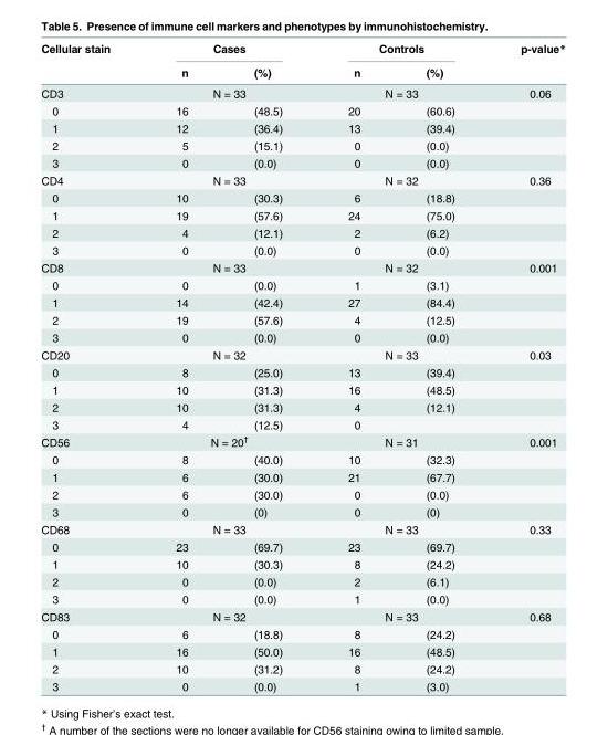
<table><thead><tr><td rowspan="2">Cellular stain</td><td colspan="2">Cases</td><td colspan="2">Controls</td><td rowspan="2">p-value*</td></tr><tr><td>n</td><td>(%)</td><td>n</td><td>(%)</td></tr></thead><tbody><tr><td>CD3</td><td colspan="2">N = 33</td><td colspan="2">N = 33</td><td>0.06</td></tr><tr><td>0</td><td>16</td><td>(48.5)</td><td>20</td><td>(60.6)</td><td></td></tr><tr><td>1</td><td>12</td><td>(36.4)</td><td>13</td><td>(39.4)</td><td></td></tr><tr><td>2</td><td>5</td><td>(15.1)</td><td>0</td><td>(0.0)</td><td></td></tr><tr><td>3</td><td>0</td><td>(0.0)</td><td>0</td><td>(0.0)</td><td></td></tr><tr><td>CD4</td><td colspan="2">N = 33</td><td colspan="2">N = 32</td><td>0.36</td></tr><tr><td>0</td><td>10</td><td>(30.3)</td><td>6</td><td>(18.8)</td><td></td></tr><tr><td>1</td><td>19</td><td>(57.6)</td><td>24</td><td>(75.0)</td><td></td></tr><tr><td>2</td><td>4</td><td>(12.1)</td><td>2</td><td>(6.2)</td><td></td></tr><tr><td>3</td><td>0</td><td>(0.0)</td><td>0</td><td>(0.0)</td><td></td></tr><tr><td>CD8</td><td colspan="2">N = 33</td><td colspan="2">N = 32</td><td>0.001</td></tr><tr><td>0</td><td>0</td><td>(0.0)</td><td>1</td><td>(3.1)</td><td></td></tr><tr><td>1</td><td>14</td><td>(42.4)</td><td>27</td><td>(84.4)</td><td></td></tr><tr><td>2</td><td>19</td><td>(57.6)</td><td>4</td><td>(12.5)</td><td></td></tr><tr><td>3</td><td>0</td><td>(0.0)</td><td>0</td><td>(0.0)</td><td></td></tr><tr><td>CD20</td><td colspan="2">N = 32</td><td colspan="2">N = 33</td><td>0.03</td></tr><tr><td>0</td><td>8</td><td>(25.0)</td><td>13</td><td>(39.4)</td><td></td></tr><tr><td>1</td><td>10</td><td>(31.3)</td><td>16</td><td>(48.5)</td><td></td></tr><tr><td>2</td><td>10</td><td>(31.3)</td><td>4</td><td>(12.1)</td><td></td></tr><tr><td>3</td><td>4</td><td>(12.5)</td><td>0</td><td></td><td></td></tr><tr><td>CD56</td><td colspan="2">N = 20<sup>†</sup></td><td colspan="2">N = 31</td><td>0.001</td></tr><tr><td>0</td><td>8</td><td>(40.0)</td><td>10</td><td>(32.3)</td><td></td></tr><tr><td>1</td><td>6</td><td>(30.0)</td><td>21</td><td>(67.7)</td><td></td></tr><tr><td>2</td><td>6</td><td>(30.0)</td><td>0</td><td>(0.0)</td><td></td></tr><tr><td>3</td><td>0</td><td>(0)</td><td>0</td><td>(0)</td><td></td></tr><tr><td>CD68</td><td colspan="2">N = 33</td><td colspan="2">N = 33</td><td>0.33</td></tr><tr><td>0</td><td>23</td><td>(69.7)</td><td>23</td><td>(69.7)</td><td></td></tr><tr><td>1</td><td>10</td><td>(30.3)</td><td>8</td><td>(24.2)</td><td></td></tr><tr><td>2</td><td>0</td><td>(0.0)</td><td>2</td><td>(6.1)</td><td></td></tr><tr><td>3</td><td>0</td><td>(0.0)</td><td>1</td><td>(0.0)</td><td></td></tr><tr><td>CD83</td><td colspan="2">N = 32</td><td colspan="2">N = 33</td><td>0.68</td></tr><tr><td>0</td><td>6</td><td>(18.8)</td><td>8</td><td>(24.2)</td><td></td></tr><tr><td>1</td><td>16</td><td>(50.0)</td><td>16</td><td>(48.5)</td><td></td></tr><tr><td>2</td><td>10</td><td>(31.2)</td><td>8</td><td>(24.2)</td><td></td></tr><tr><td>3</td><td>0</td><td>(0.0)</td><td>1</td><td>(3.0)</td><td></td></tr></tbody></table>